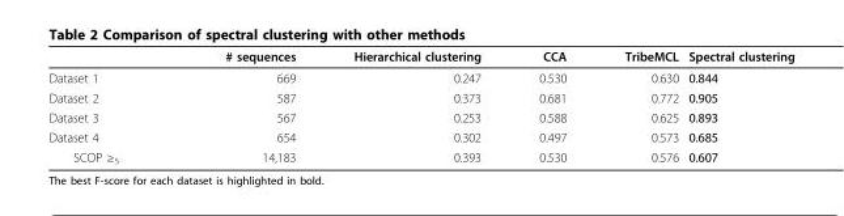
<table><thead><tr><td></td><td># sequences</td><td>Hierarchical clustering</td><td>CCA</td><td>TribeMCL</td><td>Spectral clustering</td></tr></thead><tbody><tr><td>Dataset 1</td><td>669</td><td>0.247</td><td>0.530</td><td>0.630</td><td>0.844</td></tr><tr><td>Dataset 2</td><td>587</td><td>0.373</td><td>0.681</td><td>0.772</td><td>0.905</td></tr><tr><td>Dataset 3</td><td>567</td><td>0.253</td><td>0.588</td><td>0.625</td><td>0.893</td></tr><tr><td>Dataset 4</td><td>654</td><td>0.302</td><td>0.497</td><td>0.573</td><td>0.685</td></tr><tr><td>SCOP ≥<sub>5</sub></td><td>14,183</td><td>0.393</td><td>0.530</td><td>0.576</td><td>0.607</td></tr></tbody></table>